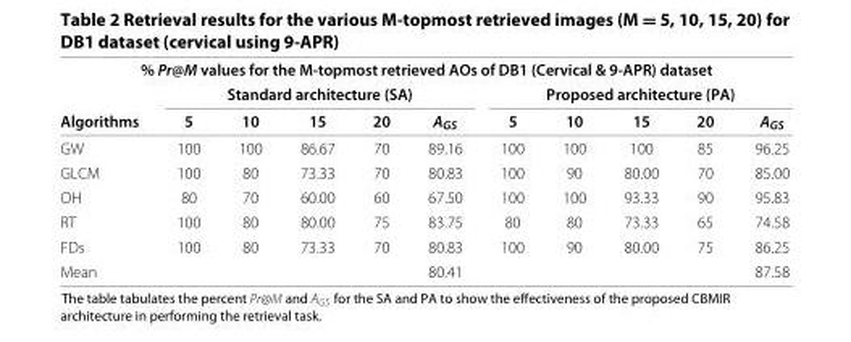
<table><thead><tr><td colspan="11">% Pr@M values for the M-topmost retrieved AOs of DB1 (Cervical &amp; 9-APR) dataset</td></tr><tr><td rowspan="2">Algorithms</td><td colspan="5">Standard architecture (SA)</td><td colspan="5">Proposed architecture (PA)</td></tr><tr><td>5</td><td>10</td><td>15</td><td>20</td><td>A<sub>GS</sub></td><td>5</td><td>10</td><td>15</td><td>20</td><td>A<sub>GS</sub></td></tr></thead><tbody><tr><td>GW</td><td>100</td><td>100</td><td>86.67</td><td>70</td><td>89.16</td><td>100</td><td>100</td><td>100</td><td>85</td><td>96.25</td></tr><tr><td>GLCM</td><td>100</td><td>80</td><td>73.33</td><td>70</td><td>80.83</td><td>100</td><td>90</td><td>80.00</td><td>70</td><td>85.00</td></tr><tr><td>OH</td><td>80</td><td>70</td><td>60.00</td><td>60</td><td>67.50</td><td>100</td><td>100</td><td>93.33</td><td>90</td><td>95.83</td></tr><tr><td>RT</td><td>100</td><td>80</td><td>80.00</td><td>75</td><td>83.75</td><td>80</td><td>80</td><td>73.33</td><td>65</td><td>74.58</td></tr><tr><td>FDs</td><td>100</td><td>80</td><td>73.33</td><td>70</td><td>80.83</td><td>100</td><td>90</td><td>80.00</td><td>75</td><td>86.25</td></tr><tr><td>Mean</td><td></td><td></td><td></td><td></td><td>80.41</td><td></td><td></td><td></td><td></td><td>87.58</td></tr></tbody></table>